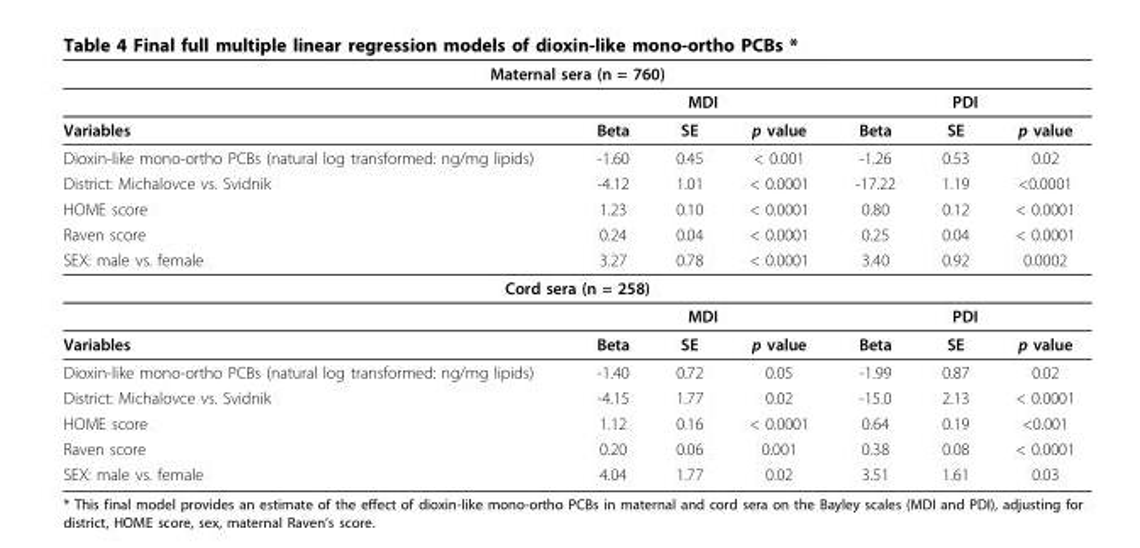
<table><thead><tr><td colspan="7">Maternal sera (n = 760)</td></tr><tr><td rowspan="2">Variables</td><td colspan="3">MDI</td><td colspan="3">PDI</td></tr><tr><td>Beta</td><td>SE</td><td>p value</td><td>Beta</td><td>SE</td><td>p value</td></tr></thead><tbody><tr><td>Dioxin-like mono-ortho PCBs (natural log transformed: ng/mg lipids)</td><td>-1.60</td><td>0.45</td><td>&lt; 0.001</td><td>-1.26</td><td>0.53</td><td>0.02</td></tr><tr><td>District: Michalovce vs. Svidnik</td><td>-4.12</td><td>1.01</td><td>&lt; 0.0001</td><td>-17.22</td><td>1.19</td><td>&lt;0.0001</td></tr><tr><td>HOME score</td><td>1.23</td><td>0.10</td><td>&lt; 0.0001</td><td>0.80</td><td>0.12</td><td>&lt; 0.0001</td></tr><tr><td>Raven score</td><td>0.24</td><td>0.04</td><td>&lt; 0.0001</td><td>0.25</td><td>0.04</td><td>&lt; 0.0001</td></tr><tr><td>SEX: male vs. female</td><td>3.27</td><td>0.78</td><td>&lt; 0.0001</td><td>3.40</td><td>0.92</td><td>0.0002</td></tr><tr><td colspan="7">Cord sera (n = 258)</td></tr><tr><td></td><td colspan="3">MDI</td><td colspan="3">PDI</td></tr><tr><td>Variables</td><td>Beta</td><td>SE</td><td>p value</td><td>Beta</td><td>SE</td><td>p value</td></tr><tr><td>Dioxin-like mono-ortho PCBs (natural log transformed: ng/mg lipids)</td><td>-1.40</td><td>0.72</td><td>0.05</td><td>-1.99</td><td>0.87</td><td>0.02</td></tr><tr><td>District: Michalovce vs. Svidnik</td><td>-4.15</td><td>1.77</td><td>0.02</td><td>-15.0</td><td>2.13</td><td>&lt; 0.0001</td></tr><tr><td>HOME score</td><td>1.12</td><td>0.16</td><td>&lt; 0.0001</td><td>0.64</td><td>0.19</td><td>&lt;0.001</td></tr><tr><td>Raven score</td><td>0.20</td><td>0.06</td><td>0.001</td><td>0.38</td><td>0.08</td><td>&lt; 0.0001</td></tr><tr><td>SEX: male vs. female</td><td>4.04</td><td>1.77</td><td>0.02</td><td>3.51</td><td>1.61</td><td>0.03</td></tr></tbody></table>